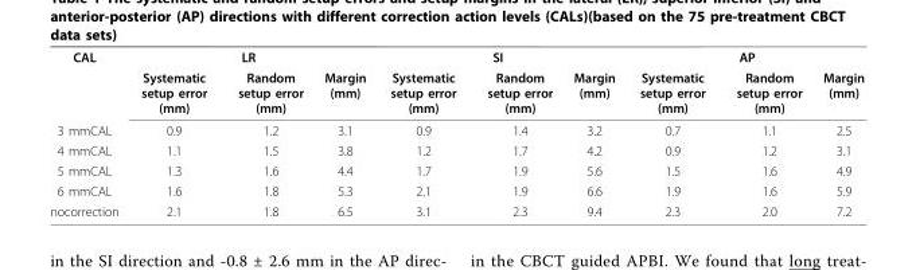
<table><tbody><tr><td rowspan="2">CAL</td><td colspan="3">LR</td><td colspan="3">SI</td><td colspan="3">AP</td></tr><tr><td>Systematic setup error (mm)</td><td>Random setup error (mm)</td><td>Margin (mm)</td><td>Systematic setup error (mm)</td><td>Random setup error (mm)</td><td>Margin (mm)</td><td>Systematic setup error (mm)</td><td>Random setup error (mm)</td><td>Margin (mm)</td></tr><tr><td>3 mmCAL</td><td>0.9</td><td>1.2</td><td>3.1</td><td>0.9</td><td>1.4</td><td>3.2</td><td>0.7</td><td>1.1</td><td>2.5</td></tr><tr><td>4 mmCAL</td><td>1.1</td><td>1.5</td><td>3.8</td><td>1.2</td><td>1.7</td><td>4.2</td><td>0.9</td><td>1.2</td><td>3.1</td></tr><tr><td>5 mmCAL</td><td>1.3</td><td>1.6</td><td>4.4</td><td>1.7</td><td>1.9</td><td>5.6</td><td>1.5</td><td>1.6</td><td>4.9</td></tr><tr><td>6 mmCAL</td><td>1.6</td><td>1.8</td><td>5.3</td><td>2.1</td><td>1.9</td><td>6.6</td><td>1.9</td><td>1.6</td><td>5.9</td></tr><tr><td>nocorrection</td><td>2.1</td><td>1.8</td><td>6.5</td><td>3.1</td><td>2.3</td><td>9.4</td><td>2.3</td><td>2.0</td><td>7.2</td></tr></tbody></table>